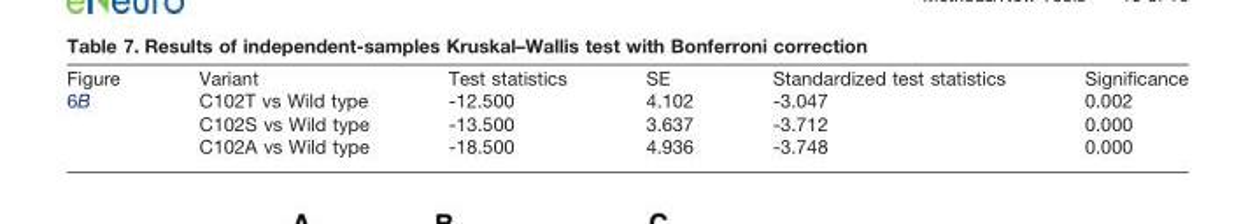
<table><thead><tr><td>Figure</td><td>Variant</td><td>Test statistics</td><td>SE</td><td>Standardized test statistics</td><td>Significance</td></tr></thead><tbody><tr><td rowspan="3">6B</td><td>C102T vs Wild type</td><td>-12.500</td><td>4.102</td><td>-3.047</td><td>0.002</td></tr><tr><td>C102S vs Wild type</td><td>-13.500</td><td>3.637</td><td>-3.712</td><td>0.000</td></tr><tr><td>C102A vs Wild type</td><td>-18.500</td><td>4.936</td><td>-3.748</td><td>0.000</td></tr></tbody></table>